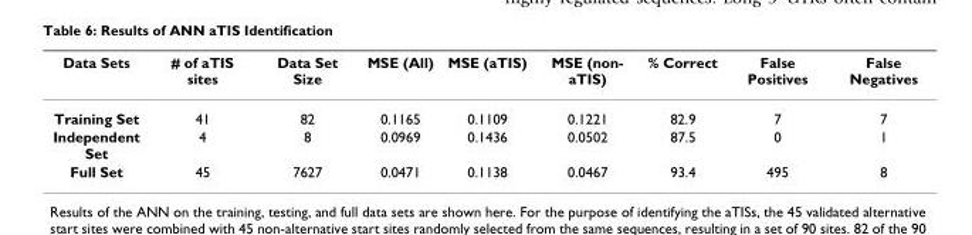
<table><thead><tr><td>Data Sets</td><td># of aTIS sites</td><td>Data Set Size</td><td>MSE (All)</td><td>MSE (aTIS)</td><td>MSE (non- aTIS)</td><td>% Correct</td><td>False Positives</td><td>False Negatives</td></tr></thead><tbody><tr><td>Training Set</td><td>41</td><td>82</td><td>0.1165</td><td>0.1109</td><td>0.1221</td><td>82.9</td><td>7</td><td>7</td></tr><tr><td>Independent Set</td><td>4</td><td>8</td><td>0.0969</td><td>0.1436</td><td>0.0502</td><td>87.5</td><td>0</td><td>1</td></tr><tr><td>Full Set</td><td>45</td><td>7627</td><td>0.0471</td><td>0.1138</td><td>0.0467</td><td>93.4</td><td>495</td><td>8</td></tr></tbody></table>